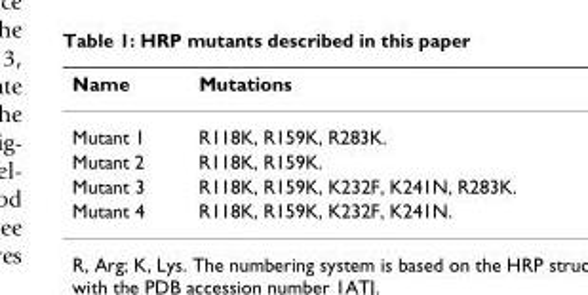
<table><thead><tr><td>Name</td><td>Mutations</td></tr></thead><tbody><tr><td>Mutant 1</td><td>R118K, R159K, R283K.</td></tr><tr><td>Mutant 2</td><td>R118K, R159K.</td></tr><tr><td>Mutant 3</td><td>R118K, R159K, K232F, K241N, R283K.</td></tr><tr><td>Mutant 4</td><td>R118K, R159K, K232F, K241N.</td></tr></tbody></table>